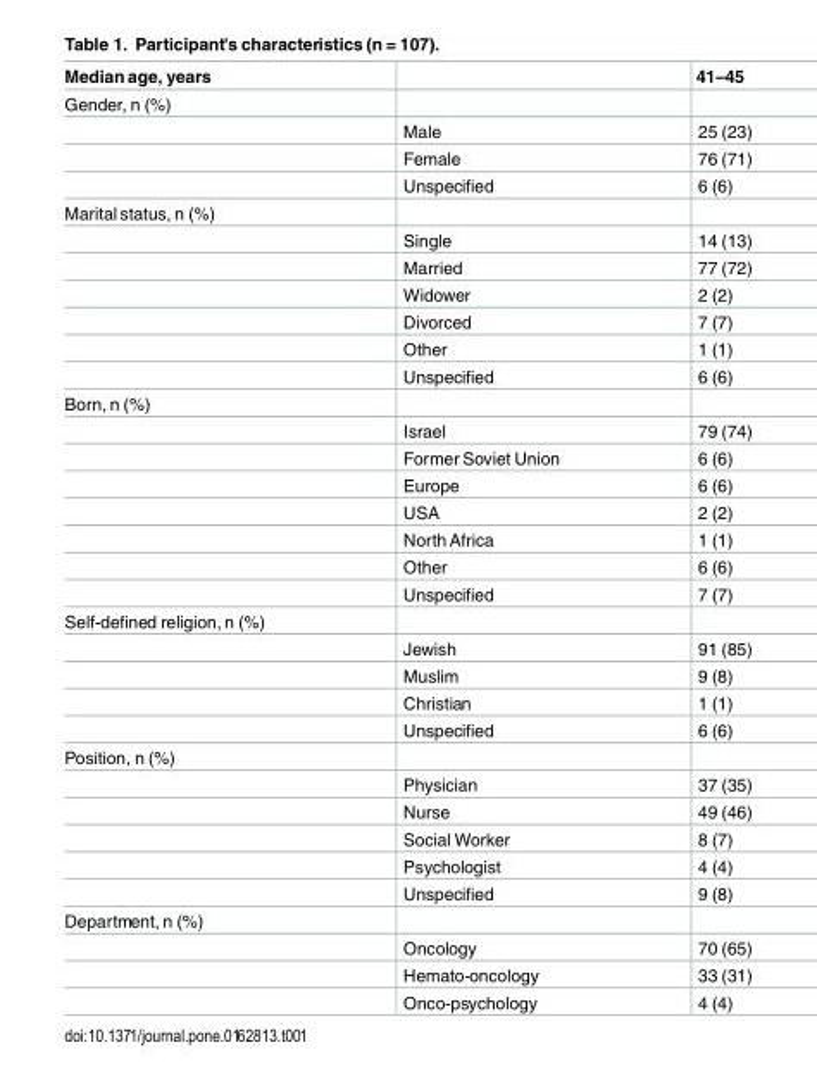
<table><thead><tr><td>Median age, years</td><td></td><td>41–45</td></tr></thead><tbody><tr><td colspan="3">Gender, n (%)</td></tr><tr><td></td><td>Male</td><td>25 (23)</td></tr><tr><td></td><td>Female</td><td>76 (71)</td></tr><tr><td></td><td>Unspecified</td><td>6 (6)</td></tr><tr><td colspan="3">Marital status, n (%)</td></tr><tr><td></td><td>Single</td><td>14 (13)</td></tr><tr><td></td><td>Married</td><td>77 (72)</td></tr><tr><td></td><td>Widower</td><td>2 (2)</td></tr><tr><td></td><td>Divorced</td><td>7 (7)</td></tr><tr><td></td><td>Other</td><td>1 (1)</td></tr><tr><td></td><td>Unspecified</td><td>6 (6)</td></tr><tr><td colspan="3">Born, n (%)</td></tr><tr><td></td><td>Israel</td><td>79 (74)</td></tr><tr><td></td><td>Former Soviet Union</td><td>6 (6)</td></tr><tr><td></td><td>Europe</td><td>6 (6)</td></tr><tr><td></td><td>USA</td><td>2 (2)</td></tr><tr><td></td><td>North Africa</td><td>1 (1)</td></tr><tr><td></td><td>Other</td><td>6 (6)</td></tr><tr><td></td><td>Unspecified</td><td>7 (7)</td></tr><tr><td colspan="3">Self-defined religion, n (%)</td></tr><tr><td></td><td>Jewish</td><td>91 (85)</td></tr><tr><td></td><td>Muslim</td><td>9 (8)</td></tr><tr><td></td><td>Christian</td><td>1 (1)</td></tr><tr><td></td><td>Unspecified</td><td>6 (6)</td></tr><tr><td colspan="3">Position, n (%)</td></tr><tr><td></td><td>Physician</td><td>37 (35)</td></tr><tr><td></td><td>Nurse</td><td>49 (46)</td></tr><tr><td></td><td>Social Worker</td><td>8 (7)</td></tr><tr><td></td><td>Psychologist</td><td>4 (4)</td></tr><tr><td></td><td>Unspecified</td><td>9 (8)</td></tr><tr><td colspan="3">Department, n (%)</td></tr><tr><td></td><td>Oncology</td><td>70 (65)</td></tr><tr><td></td><td>Hemato-oncology</td><td>33 (31)</td></tr><tr><td></td><td>Onco-psychology</td><td>4 (4)</td></tr></tbody></table>